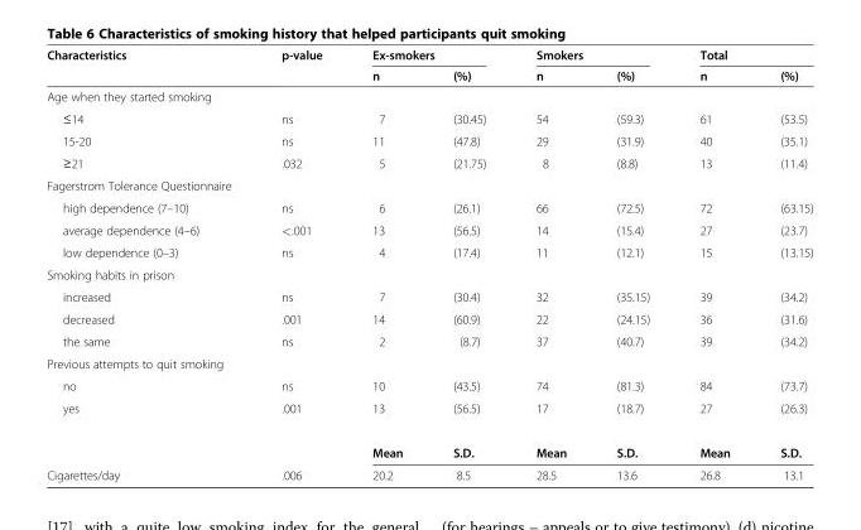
<table><thead><tr><td rowspan="2">Characteristics</td><td rowspan="2">p-value</td><td colspan="2">Ex-smokers</td><td colspan="2">Smokers</td><td colspan="2">Total</td></tr><tr><td>n</td><td>(%)</td><td>n</td><td>(%)</td><td>n</td><td>(%)</td></tr></thead><tbody><tr><td colspan="8">Age when they started smoking</td></tr><tr><td>≤14</td><td>ns</td><td>7</td><td>(30.45)</td><td>54</td><td>(59.3)</td><td>61</td><td>(53.5)</td></tr><tr><td>15-20</td><td>ns</td><td>11</td><td>(47.8)</td><td>29</td><td>(31.9)</td><td>40</td><td>(35.1)</td></tr><tr><td>≥21</td><td>.032</td><td>5</td><td>(21.75)</td><td>8</td><td>(8.8)</td><td>13</td><td>(11.4)</td></tr><tr><td colspan="8">Fagerstrom Tolerance Questionnaire</td></tr><tr><td>high dependence (7–10)</td><td>ns</td><td>6</td><td>(26.1)</td><td>66</td><td>(72.5)</td><td>72</td><td>(63.15)</td></tr><tr><td>average dependence (4–6)</td><td>&lt;.001</td><td>13</td><td>(56.5)</td><td>14</td><td>(15.4)</td><td>27</td><td>(23.7)</td></tr><tr><td>low dependence (0–3)</td><td>ns</td><td>4</td><td>(17.4)</td><td>11</td><td>(12.1)</td><td>15</td><td>(13.15)</td></tr><tr><td colspan="8">Smoking habits in prison</td></tr><tr><td>increased</td><td>ns</td><td>7</td><td>(30.4)</td><td>32</td><td>(35.15)</td><td>39</td><td>(34.2)</td></tr><tr><td>decreased</td><td>.001</td><td>14</td><td>(60.9)</td><td>22</td><td>(24.15)</td><td>36</td><td>(31.6)</td></tr><tr><td>the same</td><td>ns</td><td>2</td><td>(8.7)</td><td>37</td><td>(40.7)</td><td>39</td><td>(34.2)</td></tr><tr><td colspan="8">Previous attempts to quit smoking</td></tr><tr><td>no</td><td>ns</td><td>10</td><td>(43.5)</td><td>74</td><td>(81.3)</td><td>84</td><td>(73.7)</td></tr><tr><td rowspan="2">yes</td><td>.001</td><td>13</td><td>(56.5)</td><td>17</td><td>(18.7)</td><td>27</td><td>(26.3)</td></tr><tr><td></td><td>Mean</td><td>S.D.</td><td>Mean</td><td>S.D.</td><td>Mean</td><td>S.D.</td></tr><tr><td>Cigarettes/day</td><td>.006</td><td>20.2</td><td>8.5</td><td>28.5</td><td>13.6</td><td>26.8</td><td>13.1</td></tr></tbody></table>